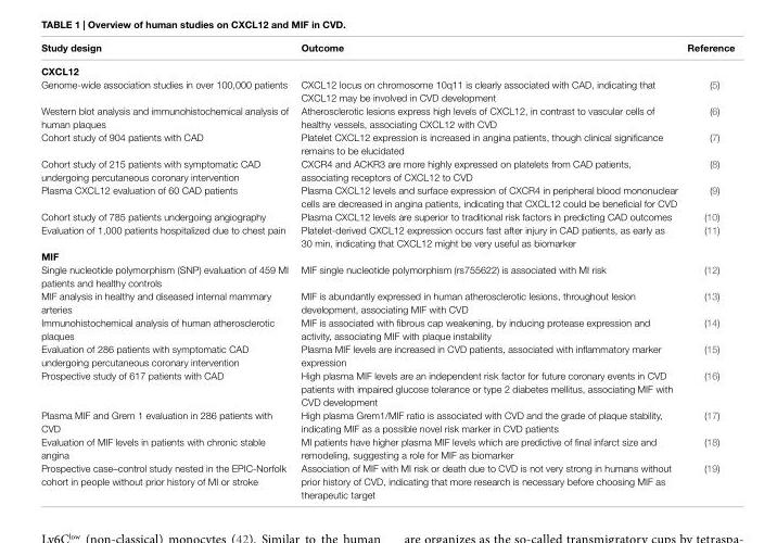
<table><thead><tr><td>Study design</td><td>Outcome</td><td>Reference</td></tr></thead><tbody><tr><td colspan="3">CXCL12</td></tr><tr><td>Genome-wide association studies in over 100,000 patients</td><td>CXCL12 locus on chromosome 10q11 is clearly associated with CAD, indicating that CXCL12 may be involved in CVD development</td><td>(5)</td></tr><tr><td>Western blot analysis and immunohistochemical analysis of human plaques</td><td>Atherosclerotic lesions express high levels of CXCL12, in contrast to vascular cells of healthy vessels, associating CXCL12 with CVD</td><td>(6)</td></tr><tr><td>Cohort study of 904 patients with CAD</td><td>Platelet CXCL12 expression is increased in angina patients, though clinical significance remains to be elucidated</td><td>(7)</td></tr><tr><td>Cohort study of 215 patients with symptomatic CAD undergoing percutaneous coronary intervention</td><td>CXCR4 and ACKR3 are more highly expressed on platelets from CAD patients, associating receptors of CXCL12 to CVD</td><td>(8)</td></tr><tr><td>Plasma CXCL12 evaluation of 60 CAD patients</td><td>Plasma CXCL12 levels and surface expression of CXCR4 in peripheral blood mononuclear cells are decreased in angina patients, indicating that CXCL12 could be beneficial for CVD</td><td>(9)</td></tr><tr><td>Cohort study of 785 patients undergoing angiography</td><td>Plasma CXCL12 levels are superior to traditional risk factors in predicting CAD outcomes</td><td>(10)</td></tr><tr><td>Evaluation of 1,000 patients hospitalized due to chest pain</td><td>Platelet-derived CXCL12 expression occurs fast after injury in CAD patients, as early as 30 min, indicating that CXCL12 might be very useful as biomarker</td><td>(11)</td></tr><tr><td colspan="3">MiF</td></tr><tr><td>Single nucleotide polymorphism (SNP) evaluation of 459 MI patients and healthy controls</td><td>MIF single nucleotide polymorphism (rs755622) is associated with MI risk</td><td>(12)</td></tr><tr><td>MIF analysis in healthy and diseased internal mammary arteries</td><td>MIF is abundantly expressed in human atherosclerotic lesions, throughout lesion development, associating MIF with CVD</td><td>(13)</td></tr><tr><td>Immunohistochemical analysis of human atherosclerotic plaques</td><td>MIF is associated with fibrous cap weakening, by inducing protease expression and activity, associating MIF with plaque instability</td><td>(14)</td></tr><tr><td>Evaluation of 286 patients with symptomatic CAD undergoing percutaneous coronary intervention</td><td>Plasma MIF levels are increased in CVD patients, associated with inflammatory marker expression</td><td>(15)</td></tr><tr><td>Prospective study of 617 patients with CAD</td><td>High plasma MIF levels are an independent risk factor for future coronary events in CVD patients with impaired glucose tolerance or type 2 diabetes mellitus, associating MIF with CVD development</td><td>(16)</td></tr><tr><td>Plasma MIF and Grem 1 evaluation in 286 patients with CVD</td><td>High plasma Grem1/MIF ratio is associated with CVD and the grade of plaque stability, indicating MIF as a possible novel risk marker in CVD patients</td><td>(17)</td></tr><tr><td>Evaluation of MIF levels in patients with chronic stable angina</td><td>MI patients have higher plasma MIF levels which are predictive of final infarct size and remodeling, suggesting a role for MIF as biomarker</td><td>(18)</td></tr><tr><td>Prospective case–control study nested in the EPIC-Norfolk cohort in people without prior history of MI or stroke</td><td>Association of MIF with MI risk or death due to CVD is not very strong in humans without prior history of CVD, indicating that more research is necessary before choosing MIF as therapeutic target</td><td>(19)</td></tr></tbody></table>